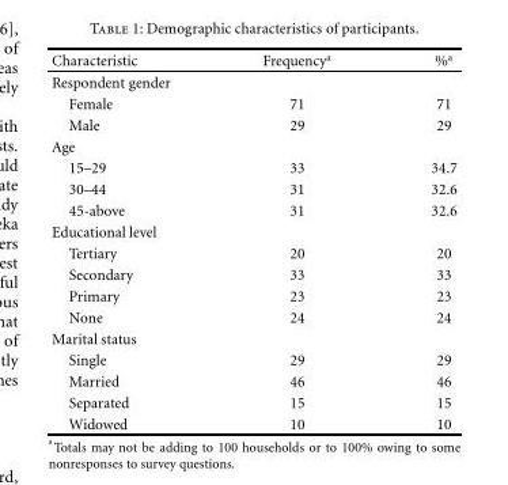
<table><thead><tr><td>Characteristic</td><td>Frequency<sup>a</sup></td><td>%<sup>a</sup></td></tr></thead><tbody><tr><td colspan="3">Respondent gender</td></tr><tr><td>Female</td><td>71</td><td>71</td></tr><tr><td>Male</td><td>29</td><td>29</td></tr><tr><td colspan="3">Age</td></tr><tr><td>15–29</td><td>33</td><td>34.7</td></tr><tr><td>30–44</td><td>31</td><td>32.6</td></tr><tr><td>45-above</td><td>31</td><td>32.6</td></tr><tr><td colspan="3">Educational level</td></tr><tr><td>Tertiary</td><td>20</td><td>20</td></tr><tr><td>Secondary</td><td>33</td><td>33</td></tr><tr><td>Primary</td><td>23</td><td>23</td></tr><tr><td>None</td><td>24</td><td>24</td></tr><tr><td colspan="3">Marital status</td></tr><tr><td>Single</td><td>29</td><td>29</td></tr><tr><td>Married</td><td>46</td><td>46</td></tr><tr><td>Separated</td><td>15</td><td>15</td></tr><tr><td>Widowed</td><td>10</td><td>10</td></tr></tbody></table>